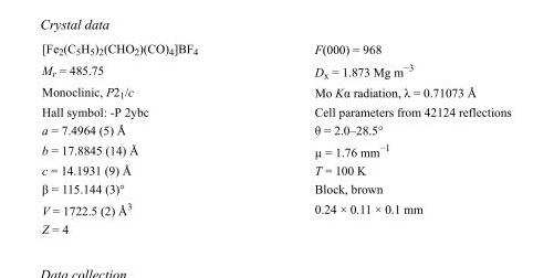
<table><tbody><tr><td>[Fe<sub>2</sub>(C<sub>5</sub>H<sub>5</sub>)<sub>2</sub>(CHO<sub>2</sub>)(CO)<sub>4</sub>]BF<sub>4</sub></td><td>F(000) = 968</td></tr><tr><td>M<sub>r</sub> = 485.75</td><td>D<sub>x</sub> = 1.873 Mg m<sup>−3</sup></td></tr><tr><td>Monoclinic, P2<sub>1</sub>/c</td><td>Mo Kα radiation, λ = 0.71073 Å</td></tr><tr><td>Hall symbol: -P 2ybc</td><td>Cell parameters from 42124 reflections</td></tr><tr><td>a = 7.4964 (5) Å</td><td>θ = 2.0–28.5°</td></tr><tr><td>b = 17.8845 (14) Å</td><td>µ = 1.76 mm<sup>−1</sup></td></tr><tr><td>c = 14.1931 (9) Å</td><td>T = 100 K</td></tr><tr><td>β = 115.144 (3)°</td><td>Block, brown</td></tr><tr><td>V = 1722.5 (2) Å<sup>3</sup></td><td>0.24 × 0.11 × 0.1 mm</td></tr><tr><td>Z = 4</td><td></td></tr></tbody></table>